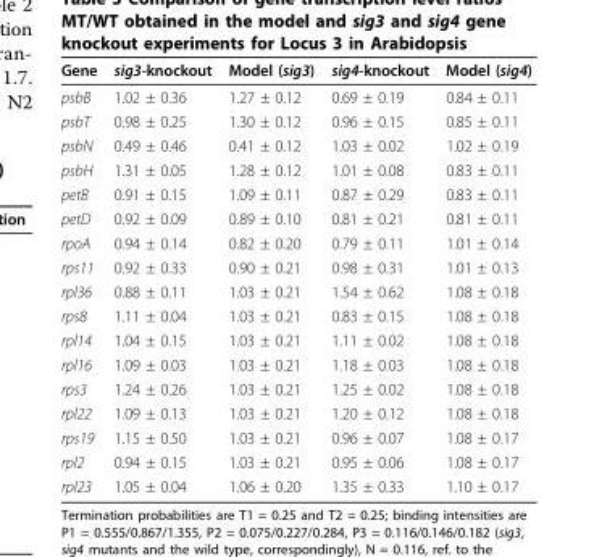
<table><thead><tr><td>Gene</td><td>sig3-knockout</td><td>Model (sig3)</td><td>sig4-knockout</td><td>Model (sig4)</td></tr></thead><tbody><tr><td>psbB</td><td>1.02 ± 0.36</td><td>1.27 ± 0.12</td><td>0.69 ± 0.19</td><td>0.84 ± 0.11</td></tr><tr><td>psbT</td><td>0.98 ± 0.25</td><td>1.30 ± 0.12</td><td>0.96 ± 0.15</td><td>0.85 ± 0.11</td></tr><tr><td>psbN</td><td>0.49 ± 0.46</td><td>0.41 ± 0.12</td><td>1.03 ± 0.02</td><td>1.02 ± 0.19</td></tr><tr><td>psbH</td><td>1.31 ± 0.05</td><td>1.28 ± 0.12</td><td>1.01 ± 0.08</td><td>0.83 ± 0.11</td></tr><tr><td>petB</td><td>0.91 ± 0.15</td><td>1.09 ± 0.11</td><td>0.87 ± 0.29</td><td>0.83 ± 0.11</td></tr><tr><td>petD</td><td>0.92 ± 0.09</td><td>0.89 ± 0.10</td><td>0.81 ± 0.21</td><td>0.81 ± 0.11</td></tr><tr><td>rpoA</td><td>0.94 ± 0.14</td><td>0.82 ± 0.20</td><td>0.79 ± 0.11</td><td>1.01 ± 0.14</td></tr><tr><td>rps11</td><td>0.92 ± 0.33</td><td>0.90 ± 0.21</td><td>0.98 ± 0.31</td><td>1.01 ± 0.13</td></tr><tr><td>rpl36</td><td>0.88 ± 0.11</td><td>1.03 ± 0.21</td><td>1.54 ± 0.62</td><td>1.08 ± 0.18</td></tr><tr><td>rps8</td><td>1.11 ± 0.04</td><td>1.03 ± 0.21</td><td>0.83 ± 0.15</td><td>1.08 ± 0.18</td></tr><tr><td>rpl14</td><td>1.04 ± 0.15</td><td>1.03 ± 0.21</td><td>1.11 ± 0.02</td><td>1.08 ± 0.18</td></tr><tr><td>rpl16</td><td>1.09 ± 0.03</td><td>1.03 ± 0.21</td><td>1.18 ± 0.03</td><td>1.08 ± 0.18</td></tr><tr><td>rps3</td><td>1.24 ± 0.26</td><td>1.03 ± 0.21</td><td>1.25 ± 0.02</td><td>1.08 ± 0.18</td></tr><tr><td>rpl22</td><td>1.09 ± 0.13</td><td>1.03 ± 0.21</td><td>1.20 ± 0.12</td><td>1.08 ± 0.18</td></tr><tr><td>rps19</td><td>1.15 ± 0.50</td><td>1.03 ± 0.21</td><td>0.96 ± 0.07</td><td>1.08 ± 0.17</td></tr><tr><td>rpl2</td><td>0.94 ± 0.15</td><td>1.03 ± 0.21</td><td>0.95 ± 0.06</td><td>1.08 ± 0.17</td></tr><tr><td>rpl23</td><td>1.05 ± 0.04</td><td>1.06 ± 0.20</td><td>1.35 ± 0.33</td><td>1.10 ± 0.17</td></tr></tbody></table>